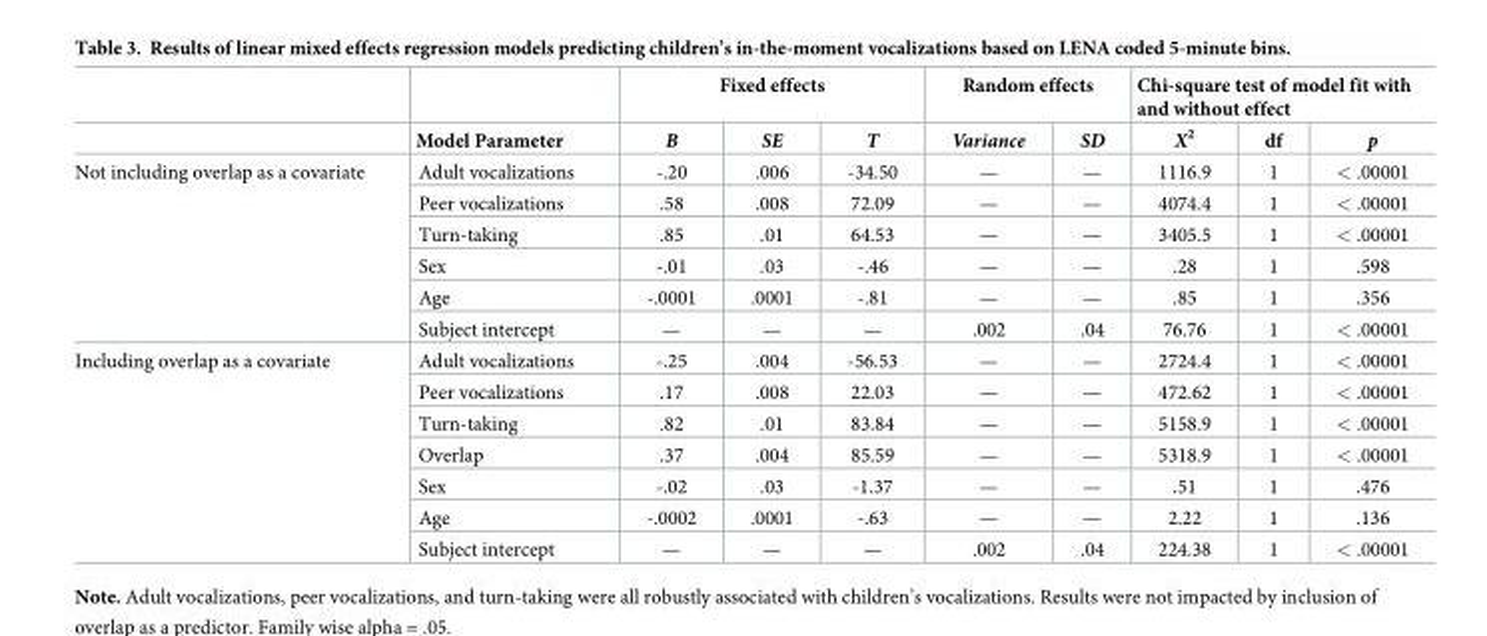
<table><thead><tr><td rowspan="2"></td><td rowspan="2">Model Parameter</td><td colspan="3">Fixed effects</td><td colspan="2">Random effects</td><td colspan="3">Chi-square test of model fit with and without effect</td></tr><tr><td>B</td><td>SE</td><td>T</td><td>Variance</td><td>SD</td><td>X<sup>2</sup></td><td>df</td><td>p</td></tr></thead><tbody><tr><td rowspan="6">Not including overlap as a covariate</td><td>Adult vocalizations</td><td>-.20</td><td>.006</td><td>-34.50</td><td>—</td><td>—</td><td>1116.9</td><td>1</td><td>&lt; .00001</td></tr><tr><td>Peer vocalizations</td><td>.58</td><td>.008</td><td>72.09</td><td>—</td><td>—</td><td>4074.4</td><td>1</td><td>&lt; .00001</td></tr><tr><td>Turn-taking</td><td>.85</td><td>.01</td><td>64.53</td><td>—</td><td>—</td><td>3405.5</td><td>1</td><td>&lt; .00001</td></tr><tr><td>Sex</td><td>-.01</td><td>.03</td><td>-.46</td><td>—</td><td>—</td><td>.28</td><td>1</td><td>.598</td></tr><tr><td>Age</td><td>-.0001</td><td>.0001</td><td>-.81</td><td>—</td><td>—</td><td>.85</td><td>1</td><td>.356</td></tr><tr><td>Subject intercept</td><td>—</td><td>—</td><td>—</td><td>.002</td><td>.04</td><td>76.76</td><td>1</td><td>&lt; .00001</td></tr><tr><td rowspan="7">Including overlap as a covariate</td><td>Adult vocalizations</td><td>-.25</td><td>.004</td><td>-56.53</td><td>—</td><td>—</td><td>2724.4</td><td>1</td><td>&lt; .00001</td></tr><tr><td>Peer vocalizations</td><td>.17</td><td>.008</td><td>22.03</td><td>—</td><td>—</td><td>472.62</td><td>1</td><td>&lt; .00001</td></tr><tr><td>Turn-taking</td><td>.82</td><td>.01</td><td>83.84</td><td>—</td><td>—</td><td>5158.9</td><td>1</td><td>&lt; .00001</td></tr><tr><td>Overlap</td><td>.37</td><td>.004</td><td>85.59</td><td>—</td><td>—</td><td>5318.9</td><td>1</td><td>&lt; .00001</td></tr><tr><td>Sex</td><td>-.02</td><td>.03</td><td>-1.37</td><td>—</td><td>—</td><td>.51</td><td>1</td><td>.476</td></tr><tr><td>Age</td><td>-.0002</td><td>.0001</td><td>-.63</td><td>—</td><td>—</td><td>2.22</td><td>1</td><td>.136</td></tr><tr><td>Subject intercept</td><td>—</td><td>—</td><td>—</td><td>.002</td><td>.04</td><td>224.38</td><td>1</td><td>&lt; .00001</td></tr></tbody></table>